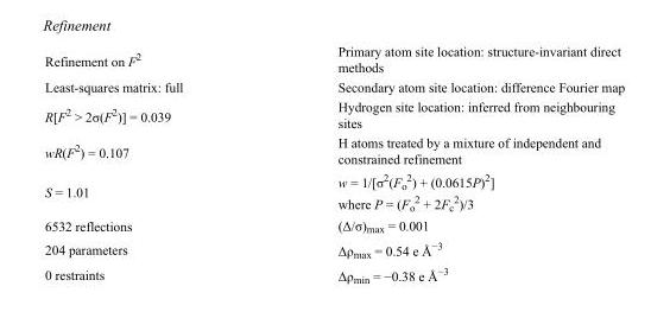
<table><tbody><tr><td>Refinement on F<sup>2</sup></td><td>Primary atom site location: structure-invariant direct methods</td></tr><tr><td>Least-squares matrix: full</td><td>Secondary atom site location: difference Fourier map</td></tr><tr><td>R[F<sup>2</sup> &gt; 2σ(F<sup>2</sup>)] = 0.039</td><td>Hydrogen site location: inferred from neighbouring sites</td></tr><tr><td>wR(F<sup>2</sup>) = 0.107</td><td>H atoms treated by a mixture of independent and constrained refinement</td></tr><tr><td>S = 1.01</td><td>w = 1/[σ<sup>2</sup>(F<sub>o</sub> <sup>2</sup>) + (0.0615P)<sup>2</sup>] where P = (F<sub>o</sub> <sup>2</sup> + 2F<sub>c</sub> <sup>2</sup>)/3</td></tr><tr><td>6532 reflections</td><td>(Δ/σ)<sub>max</sub> = 0.001</td></tr><tr><td>204 parameters</td><td>Δρ<sub>max</sub> = 0.54 e Å<sup>−3</sup></td></tr><tr><td>0 restraints</td><td>Δρ<sub>min</sub> = −0.38 e Å<sup>−3</sup></td></tr></tbody></table>